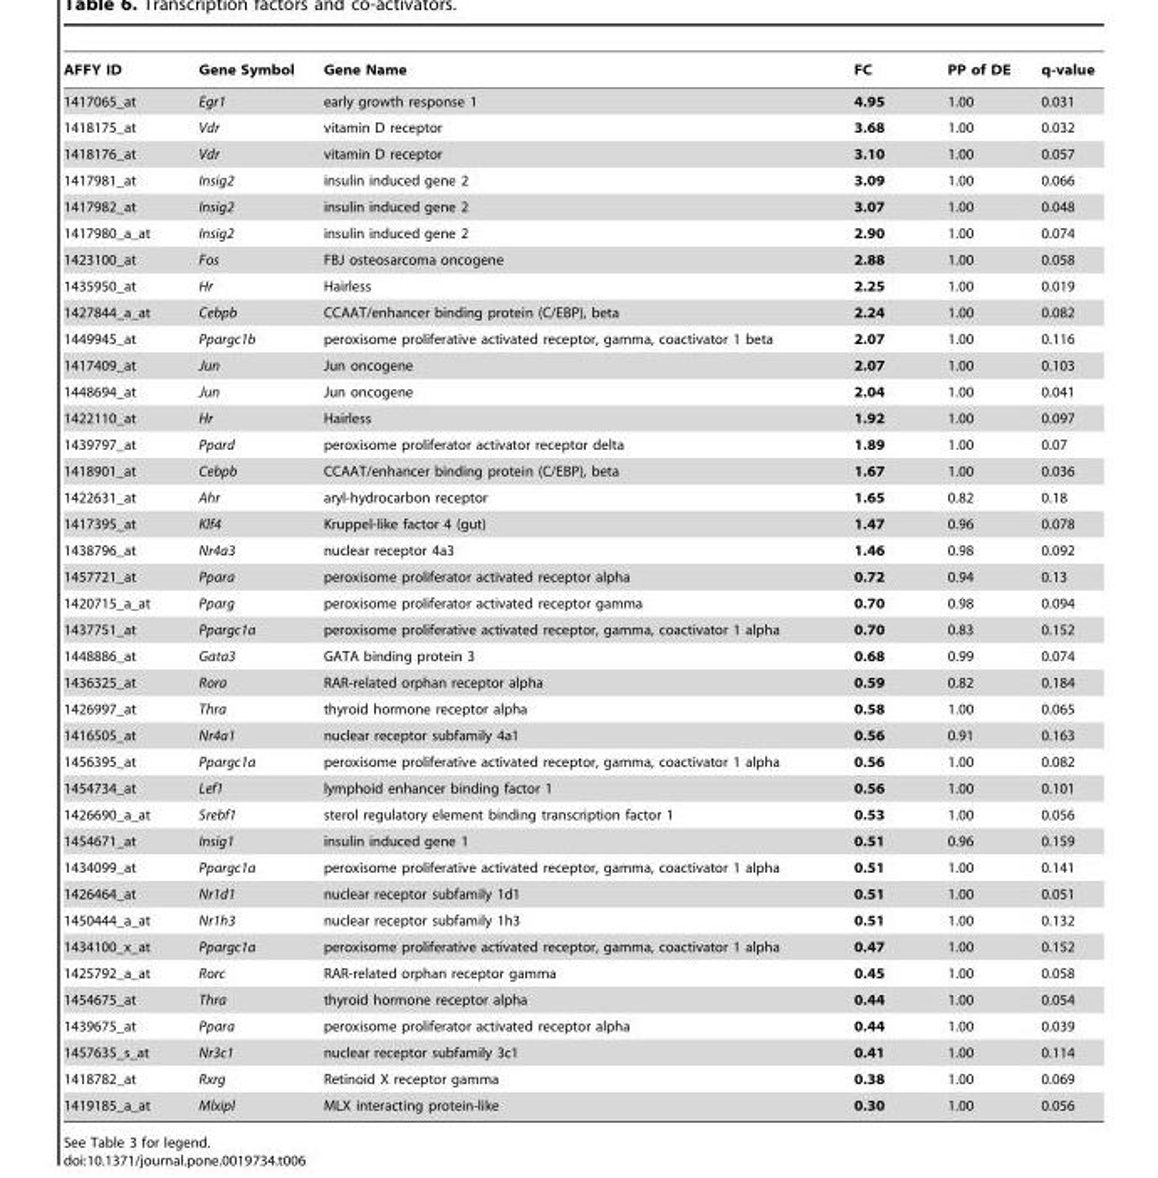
<table><thead><tr><td>AFFY ID</td><td>Gene Symbol</td><td>Gene Name</td><td>FC</td><td>PP of DE</td><td>q-value</td></tr></thead><tbody><tr><td>1417065_at</td><td>Egr1</td><td>early growth response 1</td><td>4.95</td><td>1.00</td><td>0.031</td></tr><tr><td>1418175_at</td><td>Vdr</td><td>vitamin D receptor</td><td>3.68</td><td>1.00</td><td>0.032</td></tr><tr><td>1418176_at</td><td>Vdr</td><td>vitamin D receptor</td><td>3.10</td><td>1.00</td><td>0.057</td></tr><tr><td>1417981_at</td><td>Insig2</td><td>insulin induced gene 2</td><td>3.09</td><td>1.00</td><td>0.066</td></tr><tr><td>1417982_at</td><td>Insig2</td><td>insulin induced gene 2</td><td>3.07</td><td>1.00</td><td>0.048</td></tr><tr><td>1417980_a_at</td><td>Insig2</td><td>insulin induced gene 2</td><td>2.90</td><td>1.00</td><td>0.074</td></tr><tr><td>1423100_at</td><td>Fos</td><td>FBJ osteosarcoma oncogene</td><td>2.88</td><td>1.00</td><td>0.058</td></tr><tr><td>1435950_at</td><td>Hr</td><td>Hairless</td><td>2.25</td><td>1.00</td><td>0.019</td></tr><tr><td>1427844_a_at</td><td>Cebpb</td><td>CCAAT/enhancer binding protein (C/EBP), beta</td><td>2.24</td><td>1.00</td><td>0.082</td></tr><tr><td>1449945_at</td><td>Ppargc1b</td><td>peroxisome proliferative activated receptor, gamma, coactivator 1 beta</td><td>2.07</td><td>1.00</td><td>0.116</td></tr><tr><td>1417409_at</td><td>Jun</td><td>Jun oncogene</td><td>2.07</td><td>1.00</td><td>0.103</td></tr><tr><td>1448694_at</td><td>Jun</td><td>Jun oncogene</td><td>2.04</td><td>1.00</td><td>0.041</td></tr><tr><td>1422110_at</td><td>Hr</td><td>Hairless</td><td>1.92</td><td>1.00</td><td>0.097</td></tr><tr><td>1439797_at</td><td>Ppard</td><td>peroxisome proliferator activator receptor delta</td><td>1.89</td><td>1.00</td><td>0.07</td></tr><tr><td>1418901_at</td><td>Cebpb</td><td>CCAAT/enhancer binding protein (C/EBP), beta</td><td>1.67</td><td>1.00</td><td>0.036</td></tr><tr><td>1422631_at</td><td>Ahr</td><td>aryl-hydrocarbon receptor</td><td>1.65</td><td>0.82</td><td>0.18</td></tr><tr><td>1417395_at</td><td>Klf4</td><td>Kruppel-like factor 4 (gut)</td><td>1.47</td><td>0.96</td><td>0.078</td></tr><tr><td>1438796_at</td><td>Nr4a3</td><td>nuclear receptor 4a3</td><td>1.46</td><td>0.98</td><td>0.092</td></tr><tr><td>1457721_at</td><td>Ppara</td><td>peroxisome proliferator activated receptor alpha</td><td>0.72</td><td>0.94</td><td>0.13</td></tr><tr><td>1420715_a_at</td><td>Pparg</td><td>peroxisome proliferator activated receptor gamma</td><td>0.70</td><td>0.98</td><td>0.094</td></tr><tr><td>1437751_at</td><td>Ppargc1a</td><td>peroxisome proliferative activated receptor, gamma, coactivator 1 alpha</td><td>0.70</td><td>0.83</td><td>0.152</td></tr><tr><td>1448886_at</td><td>Gata3</td><td>GATA binding protein 3</td><td>0.68</td><td>0.99</td><td>0.074</td></tr><tr><td>1436325_at</td><td>Rora</td><td>RAR-related orphan receptor alpha</td><td>0.59</td><td>0.82</td><td>0.184</td></tr><tr><td>1426997_at</td><td>Thra</td><td>thyroid hormone receptor alpha</td><td>0.58</td><td>1.00</td><td>0.065</td></tr><tr><td>1416505_at</td><td>Nr4a1</td><td>nuclear receptor subfamily 4a1</td><td>0.56</td><td>0.91</td><td>0.163</td></tr><tr><td>1456395_at</td><td>Ppargc1a</td><td>peroxisome proliferative activated receptor, gamma, coactivator 1 alpha</td><td>0.56</td><td>1.00</td><td>0.082</td></tr><tr><td>1454734_at</td><td>Lef1</td><td>lymphoid enhancer binding factor 1</td><td>0.56</td><td>1.00</td><td>0.101</td></tr><tr><td>1426690_a_at</td><td>Srebf1</td><td>sterol regulatory element binding transcription factor 1</td><td>0.53</td><td>1.00</td><td>0.056</td></tr><tr><td>1454671_at</td><td>Insig1</td><td>insulin induced gene 1</td><td>0.51</td><td>0.96</td><td>0.159</td></tr><tr><td>1434099_at</td><td>Ppargc1a</td><td>peroxisome proliferative activated receptor, gamma, coactivator 1 alpha</td><td>0.51</td><td>1.00</td><td>0.141</td></tr><tr><td>1426464_at</td><td>Nr1d1</td><td>nuclear receptor subfamily 1d1</td><td>0.51</td><td>1.00</td><td>0.051</td></tr><tr><td>1450444_a_at</td><td>Nr1h3</td><td>nuclear receptor subfamily 1h3</td><td>0.51</td><td>1.00</td><td>0.132</td></tr><tr><td>1434100_x_at</td><td>Ppargc1a</td><td>peroxisome proliferative activated receptor, gamma, coactivator 1 alpha</td><td>0.47</td><td>1.00</td><td>0.152</td></tr><tr><td>1425792_a_at</td><td>Rorc</td><td>RAR-related orphan receptor gamma</td><td>0.45</td><td>1.00</td><td>0.058</td></tr><tr><td>1454675_at</td><td>Thra</td><td>thyroid hormone receptor alpha</td><td>0.44</td><td>1.00</td><td>0.054</td></tr><tr><td>1439675_at</td><td>Ppara</td><td>peroxisome proliferator activated receptor alpha</td><td>0.44</td><td>1.00</td><td>0.039</td></tr><tr><td>1457635_s_at</td><td>Nr3c1</td><td>nuclear receptor subfamily 3c1</td><td>0.41</td><td>1.00</td><td>0.114</td></tr><tr><td>1418782_at</td><td>Rxrg</td><td>Retinoid X receptor gamma</td><td>0.38</td><td>1.00</td><td>0.069</td></tr><tr><td>1419185_a_at</td><td>Mlxipl</td><td>MLX interacting protein-like</td><td>0.30</td><td>1.00</td><td>0.056</td></tr></tbody></table>